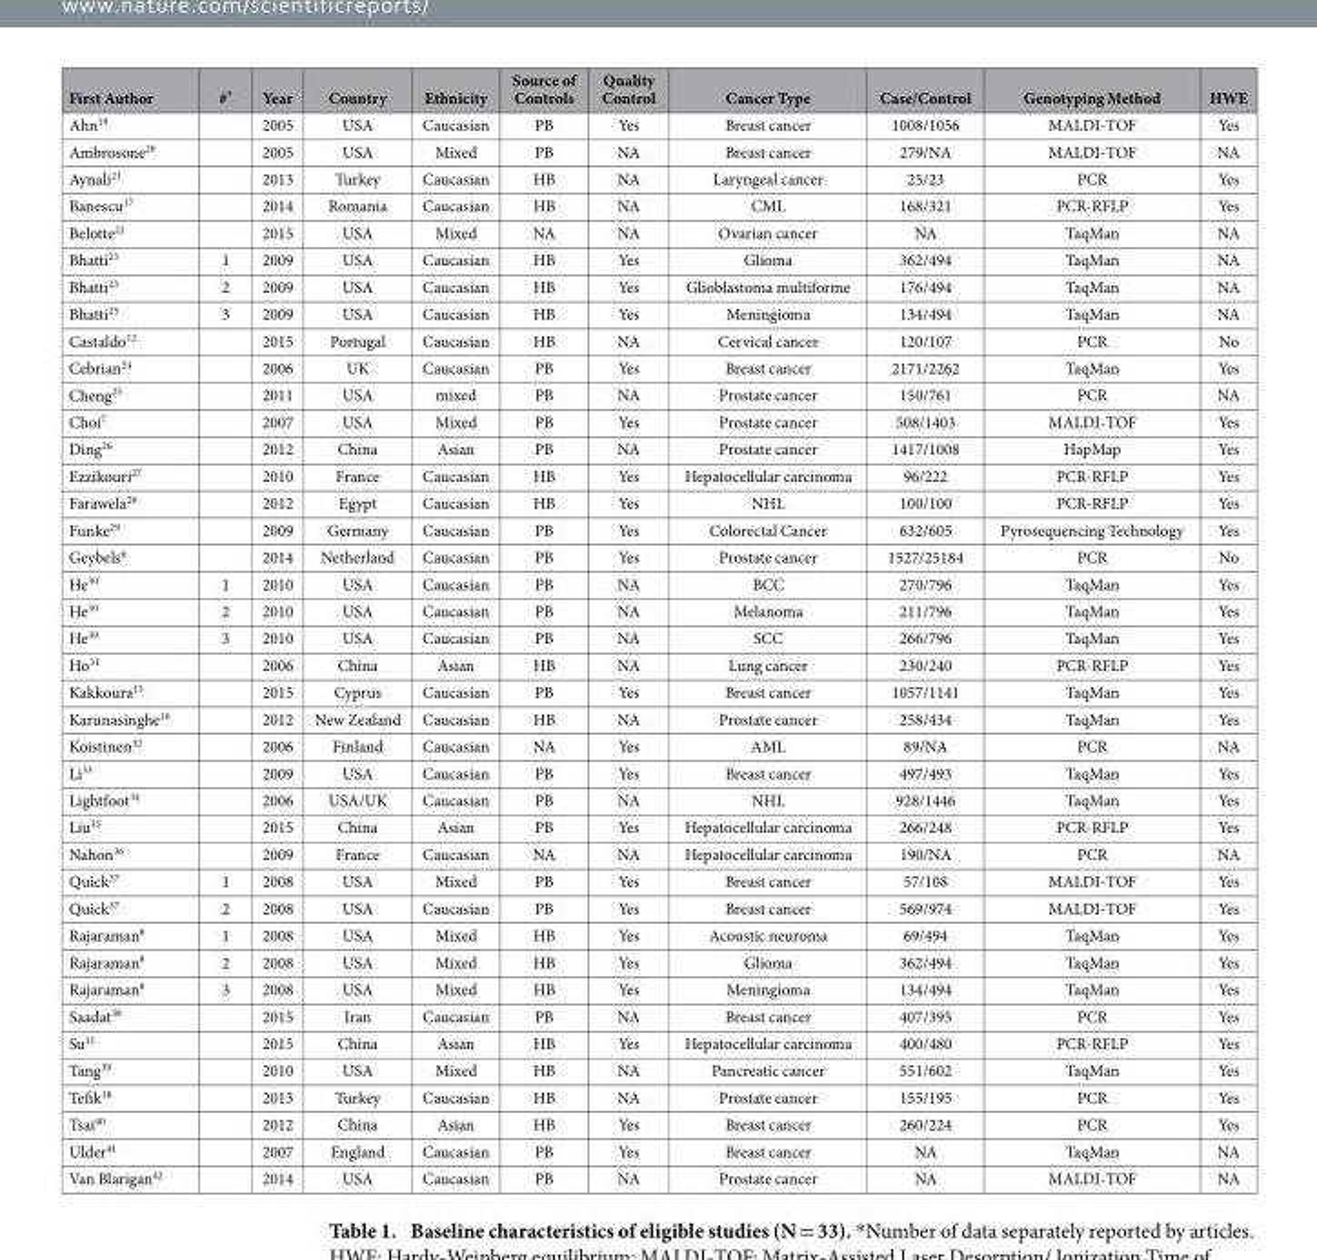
<table><thead><tr><td>First Author</td><td>#*</td><td>Year</td><td>Country</td><td>Ethnicity</td><td>Source of Controls</td><td>Quality Control</td><td>Cancer Type</td><td>Case/Control</td><td>Genotyping Method</td><td>HWE</td></tr></thead><tbody><tr><td>Ahn<sup>19</sup></td><td></td><td>2005</td><td>USA</td><td>Caucasian</td><td>PB</td><td>Yes</td><td>Breast cancer</td><td>1008/1056</td><td>MALDI-TOF</td><td>Yes</td></tr><tr><td>Ambrosone<sup>20</sup></td><td></td><td>2005</td><td>USA</td><td>Mixed</td><td>PB</td><td>NA</td><td>Breast cancer</td><td>279/NA</td><td>MALDI-TOF</td><td>NA</td></tr><tr><td>Aynali<sup>21</sup></td><td></td><td>2013</td><td>Turkey</td><td>Caucasian</td><td>HB</td><td>NA</td><td>Laryngeal cancer</td><td>25/23</td><td>PCR</td><td>Yes</td></tr><tr><td>Banescu<sup>17</sup></td><td></td><td>2014</td><td>Romania</td><td>Caucasian</td><td>HB</td><td>NA</td><td>CML</td><td>168/321</td><td>PCR-RFLP</td><td>Yes</td></tr><tr><td>Belotte<sup>22</sup></td><td></td><td>2015</td><td>USA</td><td>Mixed</td><td>NA</td><td>NA</td><td>Ovarian cancer</td><td>NA</td><td>TaqMan</td><td>NA</td></tr><tr><td>Bhatti<sup>23</sup></td><td>1</td><td>2009</td><td>USA</td><td>Caucasian</td><td>HB</td><td>Yes</td><td>Glioma</td><td>362/494</td><td>TaqMan</td><td>NA</td></tr><tr><td>Bhatti<sup>23</sup></td><td>2</td><td>2009</td><td>USA</td><td>Caucasian</td><td>HB</td><td>Yes</td><td>Glioblastoma multiforme</td><td>176/494</td><td>TaqMan</td><td>NA</td></tr><tr><td>Bhatti<sup>23</sup></td><td>3</td><td>2009</td><td>USA</td><td>Caucasian</td><td>HB</td><td>Yes</td><td>Meningioma</td><td>134/494</td><td>TaqMan</td><td>NA</td></tr><tr><td>Castaldo<sup>12</sup></td><td></td><td>2015</td><td>Portugal</td><td>Caucasian</td><td>HB</td><td>NA</td><td>Cervical cancer</td><td>120/107</td><td>PCR</td><td>No</td></tr><tr><td>Cebrian<sup>24</sup></td><td></td><td>2006</td><td>UK</td><td>Caucasian</td><td>PB</td><td>Yes</td><td>Breast cancer</td><td>2171/2262</td><td>TaqMan</td><td>Yes</td></tr><tr><td>Cheng<sup>25</sup></td><td></td><td>2011</td><td>USA</td><td>mixed</td><td>PB</td><td>NA</td><td>Prostate cancer</td><td>150/761</td><td>PCR</td><td>NA</td></tr><tr><td>Choi<sup>7</sup></td><td></td><td>2007</td><td>USA</td><td>Mixed</td><td>PB</td><td>Yes</td><td>Prostate cancer</td><td>508/1403</td><td>MALDI-TOF</td><td>Yes</td></tr><tr><td>Ding<sup>26</sup></td><td></td><td>2012</td><td>China</td><td>Asian</td><td>PB</td><td>NA</td><td>Prostate cancer</td><td>1417/1008</td><td>HapMap</td><td>Yes</td></tr><tr><td>Ezzikouri<sup>27</sup></td><td></td><td>2010</td><td>France</td><td>Caucasian</td><td>HB</td><td>Yes</td><td>Hepatocellular carcinoma</td><td>96/222</td><td>PCR-RFLP</td><td>Yes</td></tr><tr><td>Farawela<sup>28</sup></td><td></td><td>2012</td><td>Egypt</td><td>Caucasian</td><td>HB</td><td>Yes</td><td>NHL</td><td>100/100</td><td>PCR-RFLP</td><td>Yes</td></tr><tr><td>Funke<sup>29</sup></td><td></td><td>2009</td><td>Germany</td><td>Caucasian</td><td>PB</td><td>Yes</td><td>Colorectal Cancer</td><td>632/605</td><td>Pyrosequencing Technology</td><td>Yes</td></tr><tr><td>Geybels<sup>6</sup></td><td></td><td>2014</td><td>Netherland</td><td>Caucasian</td><td>PB</td><td>Yes</td><td>Prostate cancer</td><td>1527/25184</td><td>PCR</td><td>No</td></tr><tr><td>He<sup>30</sup></td><td>1</td><td>2010</td><td>USA</td><td>Caucasian</td><td>PB</td><td>NA</td><td>BCC</td><td>270/796</td><td>TaqMan</td><td>Yes</td></tr><tr><td>He<sup>30</sup></td><td>2</td><td>2010</td><td>USA</td><td>Caucasian</td><td>PB</td><td>NA</td><td>Melanoma</td><td>211/796</td><td>TaqMan</td><td>Yes</td></tr><tr><td>He<sup>30</sup></td><td>3</td><td>2010</td><td>USA</td><td>Caucasian</td><td>PB</td><td>NA</td><td>SCC</td><td>266/796</td><td>TaqMan</td><td>Yes</td></tr><tr><td>Ho<sup>31</sup></td><td></td><td>2006</td><td>China</td><td>Asian</td><td>HB</td><td>NA</td><td>Lung cancer</td><td>230/240</td><td>PCR-RFLP</td><td>Yes</td></tr><tr><td>Kakkoura<sup>15</sup></td><td></td><td>2015</td><td>Cyprus</td><td>Caucasian</td><td>PB</td><td>Yes</td><td>Breast cancer</td><td>1057/1141</td><td>TaqMan</td><td>Yes</td></tr><tr><td>Karunasinghe<sup>16</sup></td><td></td><td>2012</td><td>New Zealand</td><td>Caucasian</td><td>HB</td><td>NA</td><td>Prostate cancer</td><td>258/434</td><td>TaqMan</td><td>Yes</td></tr><tr><td>Koistinen<sup>32</sup></td><td></td><td>2006</td><td>Finland</td><td>Caucasian</td><td>NA</td><td>Yes</td><td>AML</td><td>89/NA</td><td>PCR</td><td>NA</td></tr><tr><td>Li<sup>33</sup></td><td></td><td>2009</td><td>USA</td><td>Caucasian</td><td>PB</td><td>Yes</td><td>Breast cancer</td><td>497/493</td><td>TaqMan</td><td>Yes</td></tr><tr><td>Lightfoot<sup>34</sup></td><td></td><td>2006</td><td>USA/UK</td><td>Caucasian</td><td>PB</td><td>NA</td><td>NHL</td><td>928/1446</td><td>TaqMan</td><td>Yes</td></tr><tr><td>Liu<sup>35</sup></td><td></td><td>2015</td><td>China</td><td>Asian</td><td>PB</td><td>Yes</td><td>Hepatocellular carcinoma</td><td>266/248</td><td>PCR-RFLP</td><td>Yes</td></tr><tr><td>Nahon<sup>36</sup></td><td></td><td>2009</td><td>France</td><td>Caucasian</td><td>NA</td><td>NA</td><td>Hepatocellular carcinoma</td><td>190/NA</td><td>PCR</td><td>NA</td></tr><tr><td>Quick<sup>37</sup></td><td>1</td><td>2008</td><td>USA</td><td>Mixed</td><td>PB</td><td>Yes</td><td>Breast cancer</td><td>57/108</td><td>MALDI-TOF</td><td>Yes</td></tr><tr><td>Quick<sup>37</sup></td><td>2</td><td>2008</td><td>USA</td><td>Caucasian</td><td>PB</td><td>Yes</td><td>Breast cancer</td><td>569/974</td><td>MALDI-TOF</td><td>Yes</td></tr><tr><td>Rajaraman<sup>8</sup></td><td>1</td><td>2008</td><td>USA</td><td>Mixed</td><td>HB</td><td>Yes</td><td>Acoustic neuroma</td><td>69/494</td><td>TaqMan</td><td>Yes</td></tr><tr><td>Rajaraman<sup>8</sup></td><td>2</td><td>2008</td><td>USA</td><td>Mixed</td><td>HB</td><td>Yes</td><td>Glioma</td><td>362/494</td><td>TaqMan</td><td>Yes</td></tr><tr><td>Rajaraman<sup>8</sup></td><td>3</td><td>2008</td><td>USA</td><td>Mixed</td><td>HB</td><td>Yes</td><td>Meningioma</td><td>134/494</td><td>TaqMan</td><td>Yes</td></tr><tr><td>Saadat<sup>38</sup></td><td></td><td>2015</td><td>Iran</td><td>Caucasian</td><td>PB</td><td>NA</td><td>Breast cancer</td><td>407/395</td><td>PCR</td><td>Yes</td></tr><tr><td>Su<sup>11</sup></td><td></td><td>2015</td><td>China</td><td>Asian</td><td>HB</td><td>Yes</td><td>Hepatocellular carcinoma</td><td>400/480</td><td>PCR-RFLP</td><td>Yes</td></tr><tr><td>Tang<sup>39</sup></td><td></td><td>2010</td><td>USA</td><td>Mixed</td><td>HB</td><td>NA</td><td>Pancreatic cancer</td><td>551/602</td><td>TaqMan</td><td>Yes</td></tr><tr><td>Tefik<sup>18</sup></td><td></td><td>2013</td><td>Turkey</td><td>Caucasian</td><td>HB</td><td>NA</td><td>Prostate cancer</td><td>155/195</td><td>PCR</td><td>Yes</td></tr><tr><td>Tsai<sup>40</sup></td><td></td><td>2012</td><td>China</td><td>Asian</td><td>HB</td><td>Yes</td><td>Breast cancer</td><td>260/224</td><td>PCR</td><td>Yes</td></tr><tr><td>Ulder<sup>41</sup></td><td></td><td>2007</td><td>England</td><td>Caucasian</td><td>PB</td><td>Yes</td><td>Breast cancer</td><td>NA</td><td>TaqMan</td><td>NA</td></tr><tr><td>Van Blarigan<sup>42</sup></td><td></td><td>2014</td><td>USA</td><td>Caucasian</td><td>PB</td><td>NA</td><td>Prostate cancer</td><td>NA</td><td>MALDI-TOF</td><td>NA</td></tr></tbody></table>